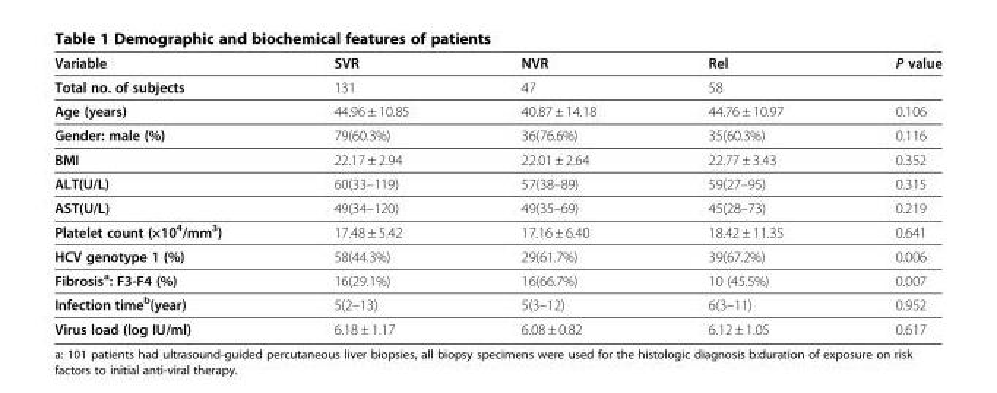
<table><thead><tr><td>Variable</td><td>SVR</td><td>NVR</td><td>Rel</td><td>P value</td></tr></thead><tbody><tr><td>Total no. of subjects</td><td>131</td><td>47</td><td>58</td><td></td></tr><tr><td>Age (years)</td><td>44.96 ± 10.85</td><td>40.87 ± 14.18</td><td>44.76 ± 10.97</td><td>0.106</td></tr><tr><td>Gender: male (%)</td><td>79(60.3%)</td><td>36(76.6%)</td><td>35(60.3%)</td><td>0.116</td></tr><tr><td>BMI</td><td>22.17 ± 2.94</td><td>22.01 ± 2.64</td><td>22.77 ± 3.43</td><td>0.352</td></tr><tr><td>ALT(U/L)</td><td>60(33–119)</td><td>57(38–89)</td><td>59(27–95)</td><td>0.315</td></tr><tr><td>AST(U/L)</td><td>49(34–120)</td><td>49(35–69)</td><td>45(28–73)</td><td>0.219</td></tr><tr><td>Platelet count (×10<sup>4</sup>/mm<sup>3</sup>)</td><td>17.48 ± 5.42</td><td>17.16 ± 6.40</td><td>18.42 ± 11.35</td><td>0.641</td></tr><tr><td>HCV genotype 1 (%)</td><td>58(44.3%)</td><td>29(61.7%)</td><td>39(67.2%)</td><td>0.006</td></tr><tr><td>Fibrosis<sup>a</sup>: F3-F4 (%)</td><td>16(29.1%)</td><td>16(66.7%)</td><td>10 (45.5%)</td><td>0.007</td></tr><tr><td>Infection time<sup>b</sup>(year)</td><td>5(2–13)</td><td>5(3–12)</td><td>6(3–11)</td><td>0.952</td></tr><tr><td>Virus load (log IU/ml)</td><td>6.18 ± 1.17</td><td>6.08 ± 0.82</td><td>6.12 ± 1.05</td><td>0.617</td></tr></tbody></table>